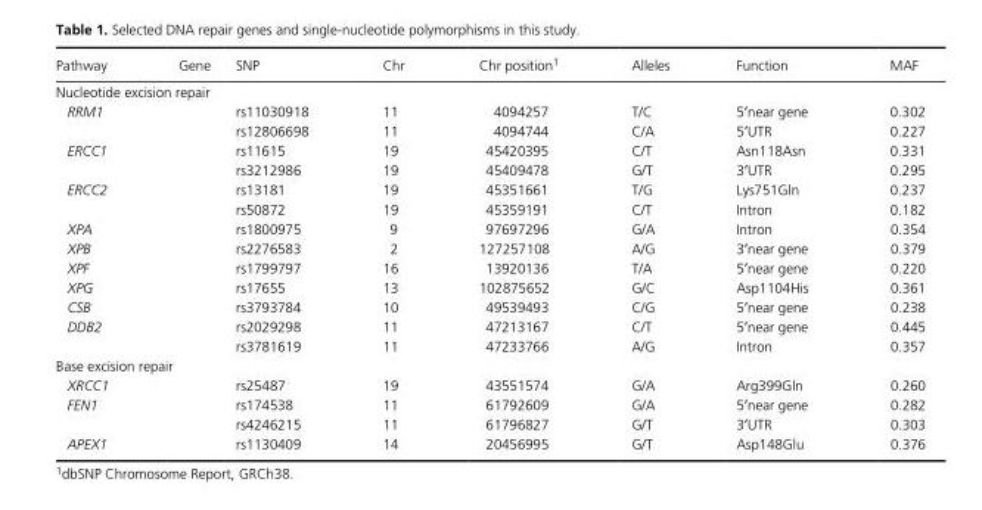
<table><thead><tr><td>Pathway</td><td>Gene</td><td>SNP</td><td>Chr</td><td>Chr position1</td><td>Alleles</td><td>Function</td><td>MAF</td></tr></thead><tbody><tr><td colspan="8">Nucleotide excision repair</td></tr><tr><td rowspan="2" colspan="2">RRM1</td><td>rs11030918</td><td>11</td><td>4094257</td><td>T/C</td><td>5′near gene</td><td>0.302</td></tr><tr><td>rs12806698</td><td>11</td><td>4094744</td><td>C/A</td><td>5′UTR</td><td>0.227</td></tr><tr><td rowspan="2" colspan="2">ERCC1</td><td>rs11615</td><td>19</td><td>45420395</td><td>C/T</td><td>Asn118Asn</td><td>0.331</td></tr><tr><td>rs3212986</td><td>19</td><td>45409478</td><td>G/T</td><td>3′UTR</td><td>0.295</td></tr><tr><td rowspan="2" colspan="2">ERCC2</td><td>rs13181</td><td>19</td><td>45351661</td><td>T/G</td><td>Lys751Gln</td><td>0.237</td></tr><tr><td>rs50872</td><td>19</td><td>45359191</td><td>C/T</td><td>Intron</td><td>0.182</td></tr><tr><td colspan="2">XPA</td><td>rs1800975</td><td>9</td><td>97697296</td><td>G/A</td><td>Intron</td><td>0.354</td></tr><tr><td colspan="2">XPB</td><td>rs2276583</td><td>2</td><td>127257108</td><td>A/G</td><td>3′near gene</td><td>0.379</td></tr><tr><td colspan="2">XPF</td><td>rs1799797</td><td>16</td><td>13920136</td><td>T/A</td><td>5′near gene</td><td>0.220</td></tr><tr><td colspan="2">XPG</td><td>rs17655</td><td>13</td><td>102875652</td><td>G/C</td><td>Asp1104His</td><td>0.361</td></tr><tr><td colspan="2">CSB</td><td>rs3793784</td><td>10</td><td>49539493</td><td>C/G</td><td>5′near gene</td><td>0.238</td></tr><tr><td rowspan="2" colspan="2">DDB2</td><td>rs2029298</td><td>11</td><td>47213167</td><td>C/T</td><td>5′near gene</td><td>0.445</td></tr><tr><td>rs3781619</td><td>11</td><td>47233766</td><td>A/G</td><td>Intron</td><td>0.357</td></tr><tr><td colspan="8">Base excision repair</td></tr><tr><td colspan="2">XRCC1</td><td>rs25487</td><td>19</td><td>43551574</td><td>G/A</td><td>Arg399Gln</td><td>0.260</td></tr><tr><td rowspan="2" colspan="2">FEN1</td><td>rs174538</td><td>11</td><td>61792609</td><td>G/A</td><td>5′near gene</td><td>0.282</td></tr><tr><td>rs4246215</td><td>11</td><td>61796827</td><td>G/T</td><td>3′UTR</td><td>0.303</td></tr><tr><td colspan="2">APEX1</td><td>rs1130409</td><td>14</td><td>20456995</td><td>G/T</td><td>Asp148Glu</td><td>0.376</td></tr></tbody></table>